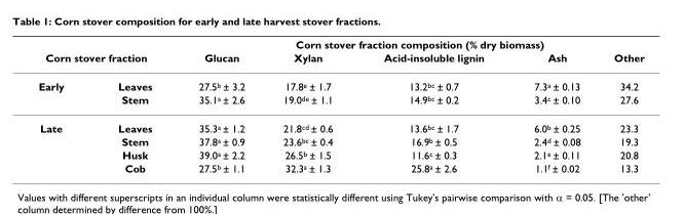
<table><thead><tr><td></td><td></td><td colspan="5">Corn stover fraction composition (% dry biomass)</td></tr><tr><td colspan="2">Corn stover fraction</td><td>Glucan</td><td>Xylan</td><td>Acid-insoluble lignin</td><td>Ash</td><td>Other</td></tr></thead><tbody><tr><td rowspan="2">Early</td><td>Leaves</td><td>27.5<sup>b</sup> ± 3.2</td><td>17.8<sup>e</sup> ± 1.7</td><td>13.2<sup>bc</sup> ± 0.7</td><td>7.3<sup>a</sup> ± 0.13</td><td>34.2</td></tr><tr><td>Stem</td><td>35.1<sup>a</sup> ± 2.6</td><td>19.0<sup>de</sup> ± 1.1</td><td>14.9<sup>bc</sup> ± 0.2</td><td>3.4<sup>c</sup> ± 0.10</td><td>27.6</td></tr><tr><td rowspan="4">Late</td><td>Leaves</td><td>35.3<sup>a</sup> ± 1.2</td><td>21.8<sup>cd</sup> ± 0.6</td><td>13.6<sup>bc</sup> ± 1.7</td><td>6.0<sup>b</sup> ± 0.25</td><td>23.3</td></tr><tr><td>Stem</td><td>37.8<sup>a</sup> ± 0.9</td><td>23.6<sup>bc</sup> ± 0.4</td><td>16.9<sup>b</sup> ± 0.5</td><td>2.4<sup>d</sup> ± 0.08</td><td>19.3</td></tr><tr><td>Husk</td><td>39.0<sup>a</sup> ± 2.2</td><td>26.5<sup>b</sup> ± 1.5</td><td>11.6<sup>c</sup> ± 0.3</td><td>2.1<sup>e</sup> ± 0.11</td><td>20.8</td></tr><tr><td>Cob</td><td>27.5<sup>b</sup> ± 1.1</td><td>32.3<sup>a</sup> ± 1.3</td><td>25.8<sup>a</sup> ± 2.6</td><td>1.1<sup>f</sup> ± 0.02</td><td>13.3</td></tr></tbody></table>